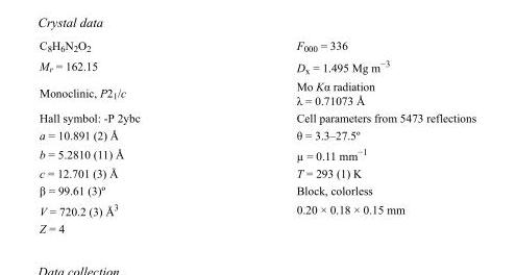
<table><tbody><tr><td>C<sub>8</sub>H<sub>6</sub>N<sub>2</sub>O<sub>2</sub></td><td>F<sub>000</sub> = 336</td></tr><tr><td>M<sub>r</sub> = 162.15</td><td>D<sub>x</sub> = 1.495 Mg m<sup>−3</sup></td></tr><tr><td>Monoclinic, P2<sub>1</sub>/c</td><td>Mo Kα radiation λ = 0.71073 Å</td></tr><tr><td>Hall symbol: -P 2ybc</td><td>Cell parameters from 5473 reflections</td></tr><tr><td>a = 10.891 (2) Å</td><td>θ = 3.3–27.5º</td></tr><tr><td>b = 5.2810 (11) Å</td><td>µ = 0.11 mm<sup>−1</sup></td></tr><tr><td>c = 12.701 (3) Å</td><td>T = 293 (1) K</td></tr><tr><td>β = 99.61 (3)º</td><td>Block, colorless</td></tr><tr><td>V = 720.2 (3) Å<sup>3</sup></td><td>0.20 × 0.18 × 0.15 mm</td></tr><tr><td>Z = 4</td><td></td></tr></tbody></table>